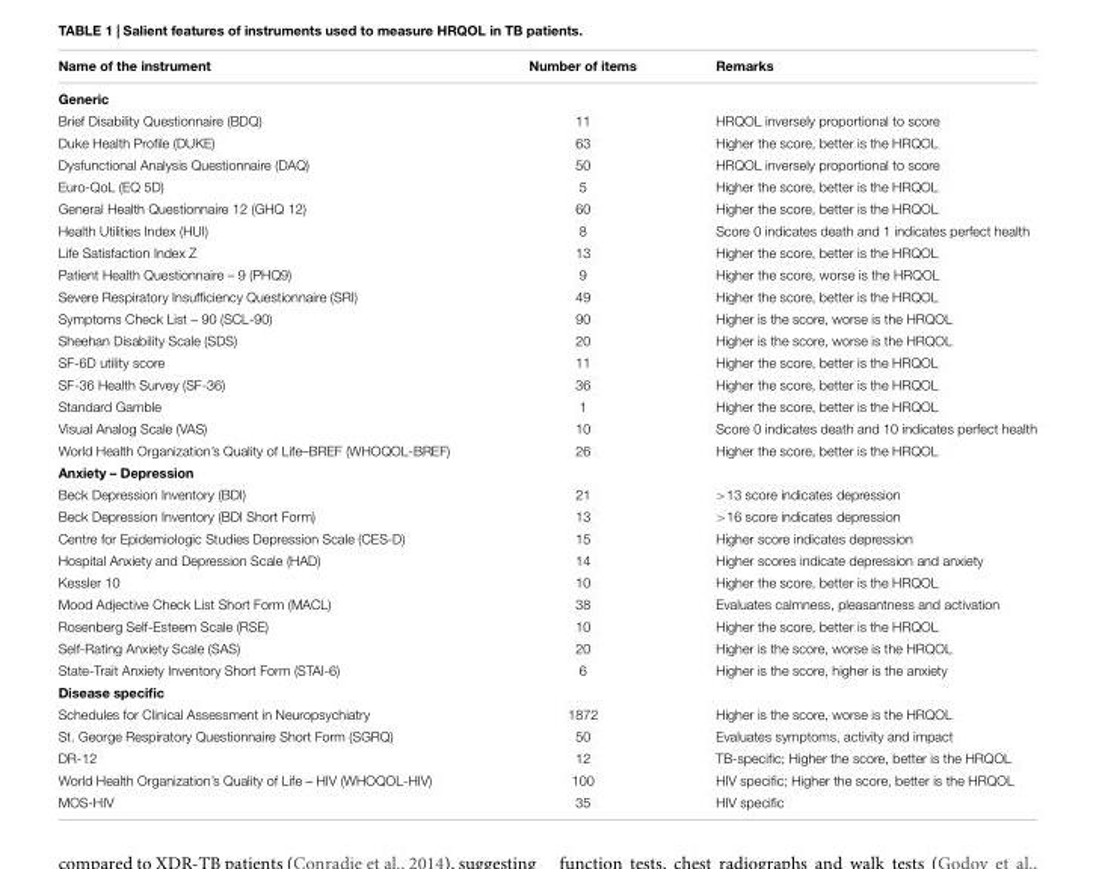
<table><thead><tr><td>Name of the instrument</td><td>Number of items</td><td>Remarks</td></tr></thead><tbody><tr><td colspan="3">Generic</td></tr><tr><td>Brief Disability Questionnaire (BDQ)</td><td>11</td><td>HRQOL inversely proportional to score</td></tr><tr><td>Duke Health Profile (DUKE)</td><td>63</td><td>Higher the score, better is the HRQOL</td></tr><tr><td>Dysfunctional Analysis Questionnaire (DAQ)</td><td>50</td><td>HRQOL inversely proportional to score</td></tr><tr><td>Euro-QoL (EQ 5D)</td><td>5</td><td>Higher the score, better is the HRQOL</td></tr><tr><td>General Health Questionnaire 12 (GHQ 12)</td><td>60</td><td>Higher the score, better is the HRQOL</td></tr><tr><td>Health Utilities Index (HUI)</td><td>8</td><td>Score 0 indicates death and 1 indicates perfect health</td></tr><tr><td>Life Satisfaction Index Z</td><td>13</td><td>Higher the score, better is the HRQOL</td></tr><tr><td>Patient Health Questionnaire – 9 (PHQ9)</td><td>9</td><td>Higher the score, worse is the HRQOL</td></tr><tr><td>Severe Respiratory Insufficiency Questionnaire (SRI)</td><td>49</td><td>Higher the score, better is the HRQOL</td></tr><tr><td>Symptoms Check List – 90 (SCL-90)</td><td>90</td><td>Higher is the score, worse is the HRQOL</td></tr><tr><td>Sheehan Disability Scale (SDS)</td><td>20</td><td>Higher is the score, worse is the HRQOL</td></tr><tr><td>SF-6D utility score</td><td>11</td><td>Higher the score, better is the HRQOL</td></tr><tr><td>SF-36 Health Survey (SF-36)</td><td>36</td><td>Higher the score, better is the HRQOL</td></tr><tr><td>Standard Gamble</td><td>1</td><td>Higher the score, better is the HRQOL</td></tr><tr><td>Visual Analog Scale (VAS)</td><td>10</td><td>Score 0 indicates death and 10 indicates perfect health</td></tr><tr><td>World Health Organization’s Quality of Life–BREF (WHOQOL-BREF)</td><td>26</td><td>Higher the score, better is the HRQOL</td></tr><tr><td colspan="3">Anxiety – Depression</td></tr><tr><td>Beck Depression Inventory (BDI)</td><td>21</td><td>&gt;13 score indicates depression</td></tr><tr><td>Beck Depression Inventory (BDI Short Form)</td><td>13</td><td>&gt;16 score indicates depression</td></tr><tr><td>Centre for Epidemiologic Studies Depression Scale (CES-D)</td><td>15</td><td>Higher score indicates depression</td></tr><tr><td>Hospital Anxiety and Depression Scale (HAD)</td><td>14</td><td>Higher scores indicate depression and anxiety</td></tr><tr><td>Kessler 10</td><td>10</td><td>Higher the score, better is the HRQOL</td></tr><tr><td>Mood Adjective Check List Short Form (MACL)</td><td>38</td><td>Evaluates calmness, pleasantness and activation</td></tr><tr><td>Rosenberg Self-Esteem Scale (RSE)</td><td>10</td><td>Higher the score, better is the HRQOL</td></tr><tr><td>Self-Rating Anxiety Scale (SAS)</td><td>20</td><td>Higher is the score, worse is the HRQOL</td></tr><tr><td>State-Trait Anxiety Inventory Short Form (STAI-6)</td><td>6</td><td>Higher is the score, higher is the anxiety</td></tr><tr><td colspan="3">Disease specific</td></tr><tr><td>Schedules for Clinical Assessment in Neuropsychiatry</td><td>1872</td><td>Higher is the score, worse is the HRQOL</td></tr><tr><td>St. George Respiratory Questionnaire Short Form (SGRQ)</td><td>50</td><td>Evaluates symptoms, activity and impact</td></tr><tr><td>DR-12</td><td>12</td><td>TB-specific; Higher the score, better is the HRQOL</td></tr><tr><td>World Health Organization’s Quality of Life – HIV (WHOQOL-HIV)</td><td>100</td><td>HIV specific; Higher the score, better is the HRQOL</td></tr><tr><td>MOS-HIV</td><td>35</td><td>HIV specific</td></tr></tbody></table>